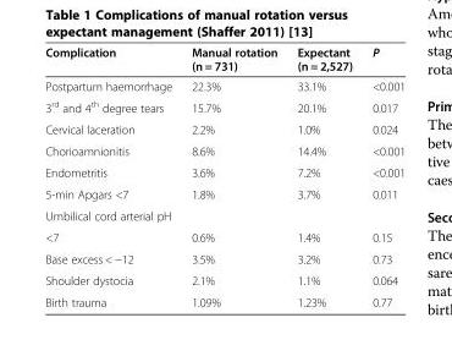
<table><thead><tr><td>Complication</td><td>Manual rotation (n = 731)</td><td>Expectant (n = 2,527)</td><td>P</td></tr></thead><tbody><tr><td>Postpartum haemorrhage</td><td>22.3%</td><td>33.1%</td><td>&lt;0.001</td></tr><tr><td>3<sup>rd</sup> and 4<sup>th</sup> degree tears</td><td>15.7%</td><td>20.1%</td><td>0.017</td></tr><tr><td>Cervical laceration</td><td>2.2%</td><td>1.0%</td><td>0.024</td></tr><tr><td>Chorioamnionitis</td><td>8.6%</td><td>14.4%</td><td>&lt;0.001</td></tr><tr><td>Endometritis</td><td>3.6%</td><td>7.2%</td><td>&lt;0.001</td></tr><tr><td>5-min Apgars &lt;7</td><td>1.8%</td><td>3.7%</td><td>0.011</td></tr><tr><td colspan="4">Umbilical cord arterial pH</td></tr><tr><td>&lt;7</td><td>0.6%</td><td>1.4%</td><td>0.15</td></tr><tr><td>Base excess &lt; −12</td><td>3.5%</td><td>3.2%</td><td>0.73</td></tr><tr><td>Shoulder dystocia</td><td>2.1%</td><td>1.1%</td><td>0.064</td></tr><tr><td>Birth trauma</td><td>1.09%</td><td>1.23%</td><td>0.77</td></tr></tbody></table>